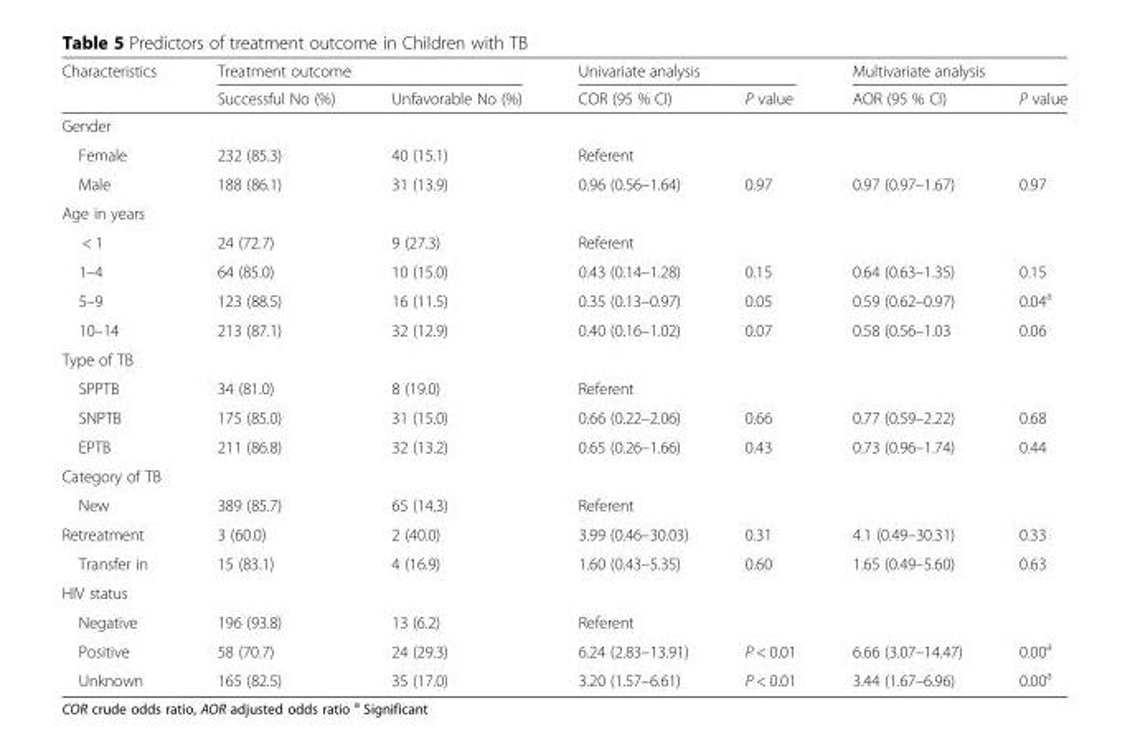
<table><thead><tr><td rowspan="2">Characteristics</td><td colspan="2">Treatment outcome</td><td colspan="2">Univariate analysis</td><td colspan="2">Multivariate analysis</td></tr><tr><td>Successful No (%)</td><td>Unfavorable No (%)</td><td>COR (95 % CI)</td><td>P value</td><td>AOR (95 % CI)</td><td>P value</td></tr></thead><tbody><tr><td colspan="7">Gender</td></tr><tr><td>Female</td><td>232 (85.3)</td><td>40 (15.1)</td><td>Referent</td><td></td><td></td><td></td></tr><tr><td>Male</td><td>188 (86.1)</td><td>31 (13.9)</td><td>0.96 (0.56–1.64)</td><td>0.97</td><td>0.97 (0.97–1.67)</td><td>0.97</td></tr><tr><td colspan="7">Age in years</td></tr><tr><td>&lt; 1</td><td>24 (72.7)</td><td>9 (27.3)</td><td>Referent</td><td></td><td></td><td></td></tr><tr><td>1–4</td><td>64 (85.0)</td><td>10 (15.0)</td><td>0.43 (0.14–1.28)</td><td>0.15</td><td>0.64 (0.63–1.35)</td><td>0.15</td></tr><tr><td>5–9</td><td>123 (88.5)</td><td>16 (11.5)</td><td>0.35 (0.13–0.97)</td><td>0.05</td><td>0.59 (0.62–0.97)</td><td>0.04<sup>a</sup></td></tr><tr><td>10–14</td><td>213 (87.1)</td><td>32 (12.9)</td><td>0.40 (0.16–1.02)</td><td>0.07</td><td>0.58 (0.56–1.03</td><td>0.06</td></tr><tr><td colspan="7">Type of TB</td></tr><tr><td>SPPTB</td><td>34 (81.0)</td><td>8 (19.0)</td><td>Referent</td><td></td><td></td><td></td></tr><tr><td>SNPTB</td><td>175 (85.0)</td><td>31 (15.0)</td><td>0.66 (0.22–2.06)</td><td>0.66</td><td>0.77 (0.59–2.22)</td><td>0.68</td></tr><tr><td>EPTB</td><td>211 (86.8)</td><td>32 (13.2)</td><td>0.65 (0.26–1.66)</td><td>0.43</td><td>0.73 (0.96–1.74)</td><td>0.44</td></tr><tr><td colspan="7">Category of TB</td></tr><tr><td>New</td><td>389 (85.7)</td><td>65 (14.3)</td><td>Referent</td><td></td><td></td><td></td></tr><tr><td>Retreatment</td><td>3 (60.0)</td><td>2 (40.0)</td><td>3.99 (0.46–30.03)</td><td>0.31</td><td>4.1 (0.49–30.31)</td><td>0.33</td></tr><tr><td>Transfer in</td><td>15 (83.1)</td><td>4 (16.9)</td><td>1.60 (0.43–5.35)</td><td>0.60</td><td>1.65 (0.49–5.60)</td><td>0.63</td></tr><tr><td colspan="7">HIV status</td></tr><tr><td>Negative</td><td>196 (93.8)</td><td>13 (6.2)</td><td>Referent</td><td></td><td></td><td></td></tr><tr><td>Positive</td><td>58 (70.7)</td><td>24 (29.3)</td><td>6.24 (2.83–13.91)</td><td>P &lt; 0.01</td><td>6.66 (3.07–14.47)</td><td>0.00<sup>a</sup></td></tr><tr><td>Unknown</td><td>165 (82.5)</td><td>35 (17.0)</td><td>3.20 (1.57–6.61)</td><td>P &lt; 0.01</td><td>3.44 (1.67–6.96)</td><td>0.00<sup>a</sup></td></tr></tbody></table>